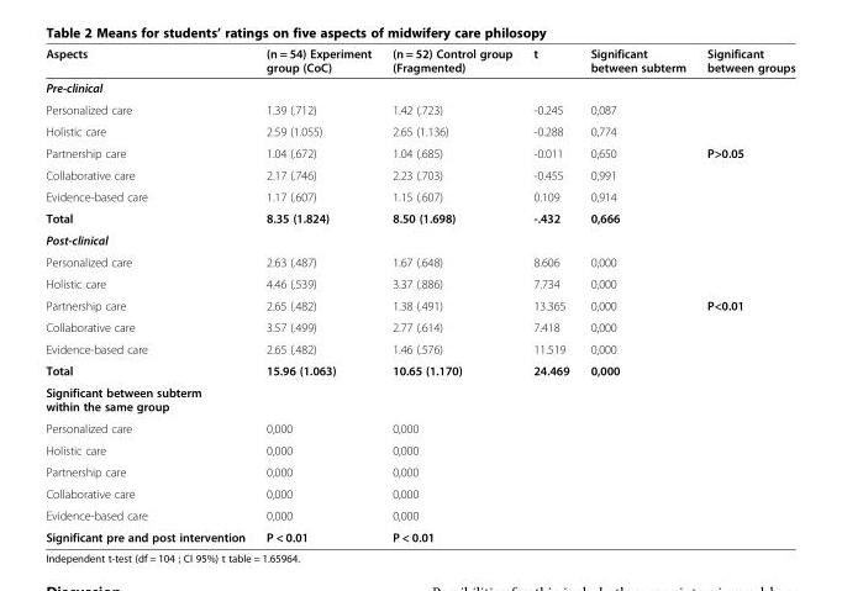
<table><thead><tr><td>Aspects</td><td>(n = 54) Experiment group (CoC)</td><td>(n = 52) Control group (Fragmented)</td><td>t</td><td>Significant between subterm</td><td>Significant between groups</td></tr></thead><tbody><tr><td colspan="6">Pre-clinical</td></tr><tr><td>Personalized care</td><td>1.39 (.712)</td><td>1.42 (.723)</td><td>-0.245</td><td>0,087</td><td></td></tr><tr><td>Holistic care</td><td>2.59 (1.055)</td><td>2.65 (1.136)</td><td>-0.288</td><td>0,774</td><td></td></tr><tr><td>Partnership care</td><td>1.04 (.672)</td><td>1.04 (.685)</td><td>-0.011</td><td>0,650</td><td>P&gt;0.05</td></tr><tr><td>Collaborative care</td><td>2.17 (.746)</td><td>2.23 (.703)</td><td>-0.455</td><td>0,991</td><td></td></tr><tr><td>Evidence-based care</td><td>1.17 (.607)</td><td>1.15 (.607)</td><td>0.109</td><td>0,914</td><td></td></tr><tr><td>Total</td><td>8.35 (1.824)</td><td>8.50 (1.698)</td><td>-.432</td><td>0,666</td><td></td></tr><tr><td colspan="6">Post-clinical</td></tr><tr><td>Personalized care</td><td>2.63 (.487)</td><td>1.67 (.648)</td><td>8.606</td><td>0,000</td><td></td></tr><tr><td>Holistic care</td><td>4.46 (.539)</td><td>3.37 (.886)</td><td>7.734</td><td>0,000</td><td></td></tr><tr><td>Partnership care</td><td>2.65 (.482)</td><td>1.38 (.491)</td><td>13.365</td><td>0,000</td><td>P&lt;0.01</td></tr><tr><td>Collaborative care</td><td>3.57 (.499)</td><td>2.77 (.614)</td><td>7.418</td><td>0,000</td><td></td></tr><tr><td>Evidence-based care</td><td>2.65 (.482)</td><td>1.46 (.576)</td><td>11.519</td><td>0,000</td><td></td></tr><tr><td>Total</td><td>15.96 (1.063)</td><td>10.65 (1.170)</td><td>24.469</td><td>0,000</td><td></td></tr><tr><td colspan="6">Significant between subterm within the same group</td></tr><tr><td>Personalized care</td><td>0,000</td><td>0,000</td><td></td><td></td><td></td></tr><tr><td>Holistic care</td><td>0,000</td><td>0,000</td><td></td><td></td><td></td></tr><tr><td>Partnership care</td><td>0,000</td><td>0,000</td><td></td><td></td><td></td></tr><tr><td>Collaborative care</td><td>0,000</td><td>0,000</td><td></td><td></td><td></td></tr><tr><td>Evidence-based care</td><td>0,000</td><td>0,000</td><td></td><td></td><td></td></tr><tr><td>Significant pre and post intervention</td><td>P &lt; 0.01</td><td>P &lt; 0.01</td><td></td><td></td><td></td></tr></tbody></table>